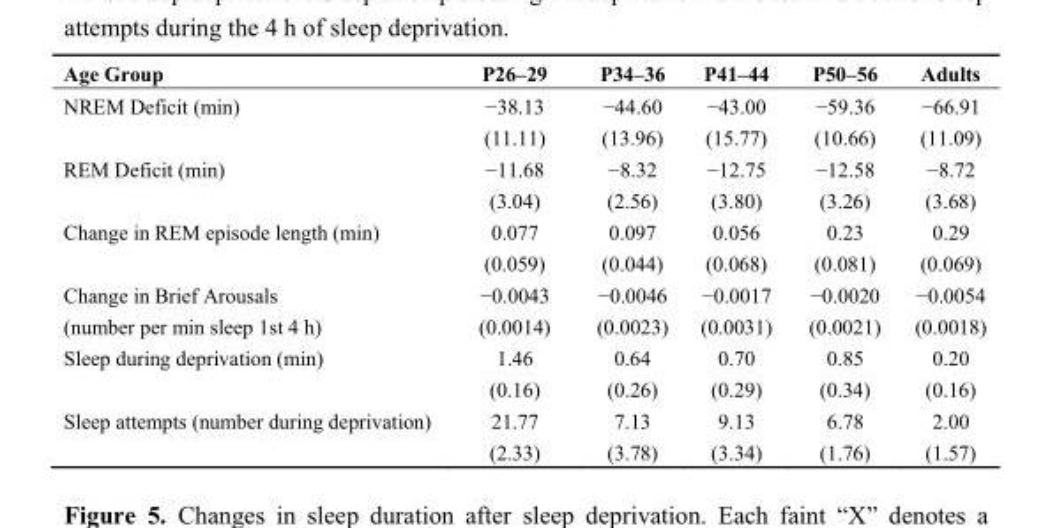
<table><thead><tr><td>Age Group</td><td>P26–29</td><td>P34–36</td><td>P41–44</td><td>P50–56</td><td>Adults</td></tr></thead><tbody><tr><td rowspan="2">NREM Deficit (min)</td><td>−38.13</td><td>−44.60</td><td>−43.00</td><td>−59.36</td><td>−66.91</td></tr><tr><td>(11.11)</td><td>(13.96)</td><td>(15.77)</td><td>(10.66)</td><td>(11.09)</td></tr><tr><td rowspan="2">REM Deficit (min)</td><td>−11.68</td><td>−8.32</td><td>−12.75</td><td>−12.58</td><td>−8.72</td></tr><tr><td>(3.04)</td><td>(2.56)</td><td>(3.80)</td><td>(3.26)</td><td>(3.68)</td></tr><tr><td rowspan="2">Change in REM episode length (min)</td><td>0.077</td><td>0.097</td><td>0.056</td><td>0.23</td><td>0.29</td></tr><tr><td>(0.059)</td><td>(0.044)</td><td>(0.068)</td><td>(0.081)</td><td>(0.069)</td></tr><tr><td>Change in Brief Arousals</td><td>−0.0043</td><td>−0.0046</td><td>−0.0017</td><td>−0.0020</td><td>−0.0054</td></tr><tr><td>(number per min sleep 1st 4 h)</td><td>(0.0014)</td><td>(0.0023)</td><td>(0.0031)</td><td>(0.0021)</td><td>(0.0018)</td></tr><tr><td rowspan="2">Sleep during deprivation (min)</td><td>1.46</td><td>0.64</td><td>0.70</td><td>0.85</td><td>0.20</td></tr><tr><td>(0.16)</td><td>(0.26)</td><td>(0.29)</td><td>(0.34)</td><td>(0.16)</td></tr><tr><td rowspan="2">Sleep attempts (number during deprivation)</td><td>21.77</td><td>7.13</td><td>9.13</td><td>6.78</td><td>2.00</td></tr><tr><td>(2.33)</td><td>(3.78)</td><td>(3.34)</td><td>(1.76)</td><td>(1.57)</td></tr></tbody></table>